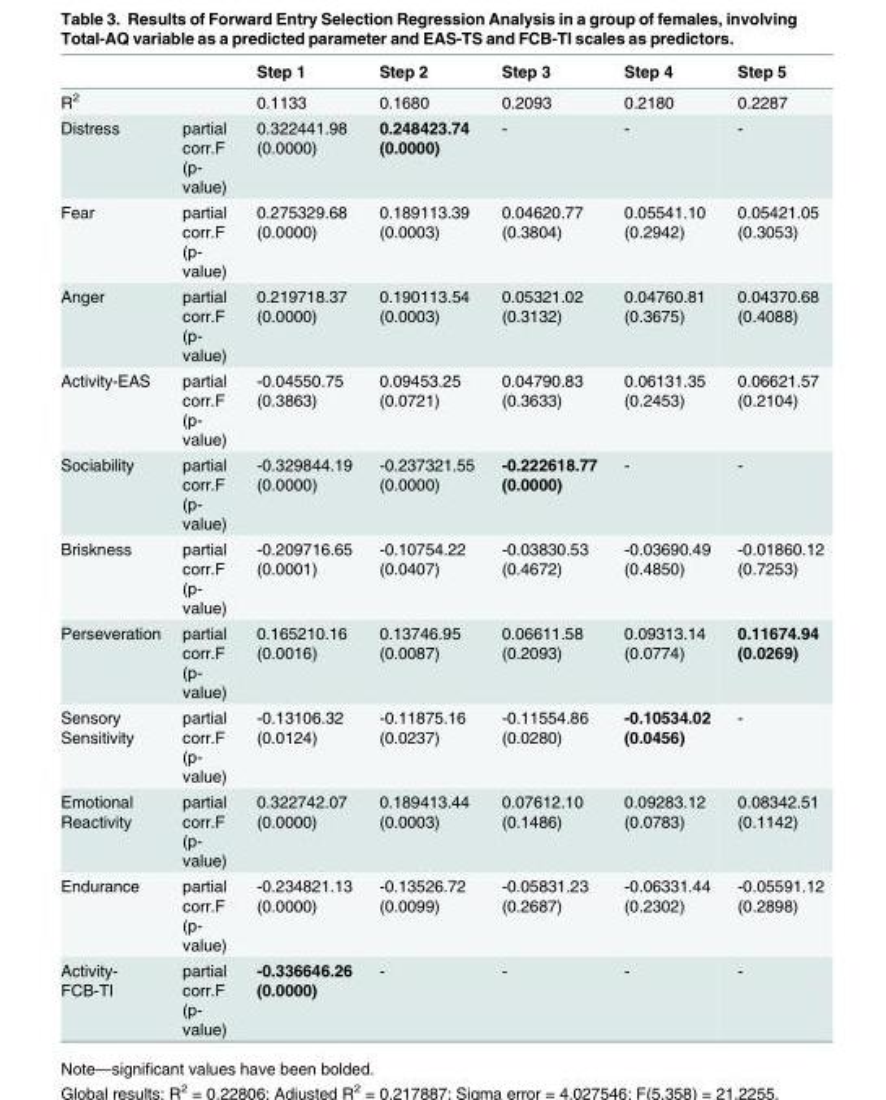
<table><thead><tr><td></td><td></td><td>Step 1</td><td>Step 2</td><td>Step 3</td><td>Step 4</td><td>Step 5</td></tr></thead><tbody><tr><td colspan="2">R<sup>2</sup></td><td>0.1133</td><td>0.1680</td><td>0.2093</td><td>0.2180</td><td>0.2287</td></tr><tr><td>Distress</td><td>partial corr.F (p- value)</td><td>0.322441.98 (0.0000)</td><td>0.248423.74 (0.0000)</td><td>-</td><td>-</td><td>-</td></tr><tr><td>Fear</td><td>partial corr.F (p- value)</td><td>0.275329.68 (0.0000)</td><td>0.189113.39 (0.0003)</td><td>0.04620.77 (0.3804)</td><td>0.05541.10 (0.2942)</td><td>0.05421.05 (0.3053)</td></tr><tr><td>Anger</td><td>partial corr.F (p- value)</td><td>0.219718.37 (0.0000)</td><td>0.190113.54 (0.0003)</td><td>0.05321.02 (0.3132)</td><td>0.04760.81 (0.3675)</td><td>0.04370.68 (0.4088)</td></tr><tr><td>Activity-EAS</td><td>partial corr.F (p- value)</td><td>-0.04550.75 (0.3863)</td><td>0.09453.25 (0.0721)</td><td>0.04790.83 (0.3633)</td><td>0.06131.35 (0.2453)</td><td>0.06621.57 (0.2104)</td></tr><tr><td>Sociability</td><td>partial corr.F (p- value)</td><td>-0.329844.19 (0.0000)</td><td>-0.237321.55 (0.0000)</td><td>-0.222618.77 (0.0000)</td><td>-</td><td>-</td></tr><tr><td>Briskness</td><td>partial corr.F (p- value)</td><td>-0.209716.65 (0.0001)</td><td>-0.10754.22 (0.0407)</td><td>-0.03830.53 (0.4672)</td><td>-0.03690.49 (0.4850)</td><td>-0.01860.12 (0.7253)</td></tr><tr><td>Perseveration</td><td>partial corr.F (p- value)</td><td>0.165210.16 (0.0016)</td><td>0.13746.95 (0.0087)</td><td>0.06611.58 (0.2093)</td><td>0.09313.14 (0.0774)</td><td>0.11674.94 (0.0269)</td></tr><tr><td>Sensory Sensitivity</td><td>partial corr.F (p- value)</td><td>-0.13106.32 (0.0124)</td><td>-0.11875.16 (0.0237)</td><td>-0.11554.86 (0.0280)</td><td>-0.10534.02 (0.0456)</td><td>-</td></tr><tr><td>Emotional Reactivity</td><td>partial corr.F (p- value)</td><td>0.322742.07 (0.0000)</td><td>0.189413.44 (0.0003)</td><td>0.07612.10 (0.1486)</td><td>0.09283.12 (0.0783)</td><td>0.08342.51 (0.1142)</td></tr><tr><td>Endurance</td><td>partial corr.F (p- value)</td><td>-0.234821.13 (0.0000)</td><td>-0.13526.72 (0.0099)</td><td>-0.05831.23 (0.2687)</td><td>-0.06331.44 (0.2302)</td><td>-0.05591.12 (0.2898)</td></tr><tr><td>Activity- FCB-TI</td><td>partial corr.F (p- value)</td><td>-0.336646.26 (0.0000)</td><td>-</td><td>-</td><td>-</td><td>-</td></tr></tbody></table>